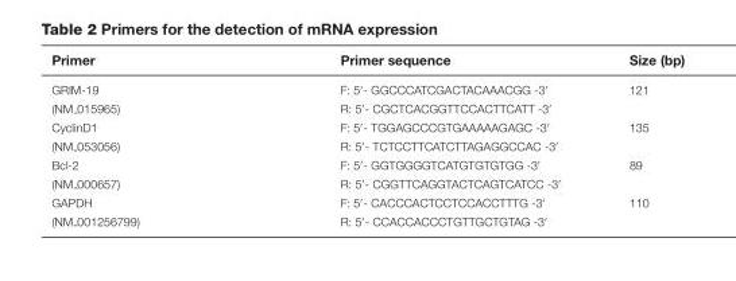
<table><thead><tr><td>Primer</td><td>Primer sequence</td><td>Size (bp)</td></tr></thead><tbody><tr><td>GRIM-19</td><td>F: 5′- GGCCCATCGACTACAAACGG -3′</td><td>121</td></tr><tr><td>(NM 015965)</td><td>R: 5′- CGCTCACGGTTCCACTTCATT -3′</td><td></td></tr><tr><td>CyclinD1</td><td>F: 5′- TGGAGCCCGTGAAAAAGAGC -3′</td><td>135</td></tr><tr><td>(NM 053056)</td><td>R: 5′- TCTCCTTCATCTTAGAGGCCAC -3′</td><td></td></tr><tr><td>Bcl-2</td><td>F: 5′- GGTGGGGTCATGTGTGTGG -3′</td><td>89</td></tr><tr><td>(NM 000657)</td><td>R: 5′- CGGTTCAGGTACTCAGTCATCC -3′</td><td></td></tr><tr><td>GAPDH</td><td>F: 5′- CACCCACTCCTCCACCTTTG -3′</td><td>110</td></tr><tr><td>(NM 001256799)</td><td>R: 5′- CCACCACCCTGTTGCTGTAG -3′</td><td></td></tr></tbody></table>